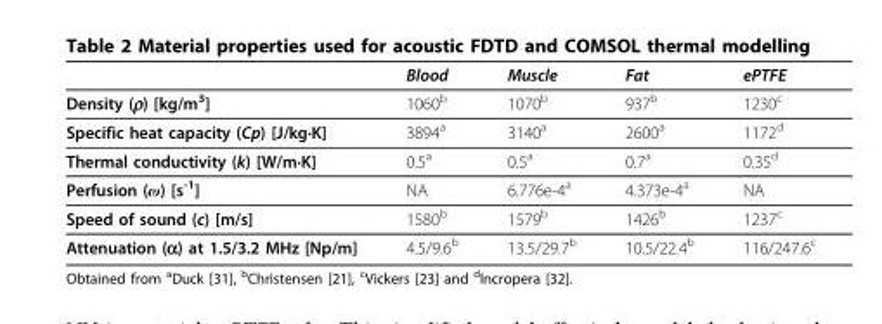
<table><thead><tr><td></td><td>Blood</td><td>Muscle</td><td>Fat</td><td>ePTFE</td></tr></thead><tbody><tr><td>Density (ρ) [kg/m<sup>3</sup>]</td><td>1060<sup>b</sup></td><td>1070<sup>b</sup></td><td>937<sup>b</sup></td><td>1230<sup>c</sup></td></tr><tr><td>Specific heat capacity (Cp) [J/kg·K]</td><td>3894<sup>a</sup></td><td>3140<sup>a</sup></td><td>2600<sup>a</sup></td><td>1172<sup>d</sup></td></tr><tr><td>Thermal conductivity (k) [W/m·K]</td><td>0.5<sup>a</sup></td><td>0.5<sup>a</sup></td><td>0.7<sup>a</sup></td><td>0.35<sup>d</sup></td></tr><tr><td>Perfusion (ω) [s<sup>-1</sup>]</td><td>NA</td><td>6.776e-4<sup>a</sup></td><td>4.373e-4<sup>a</sup></td><td>NA</td></tr><tr><td>Speed of sound (c) [m/s]</td><td>1580<sup>b</sup></td><td>1579<sup>b</sup></td><td>1426<sup>b</sup></td><td>1237<sup>c</sup></td></tr><tr><td>Attenuation (α) at 1.5/3.2 MHz [Np/m]</td><td>4.5/9.6<sup>b</sup></td><td>13.5/29.7<sup>b</sup></td><td>10.5/22.4<sup>b</sup></td><td>116/247.6<sup>c</sup></td></tr></tbody></table>